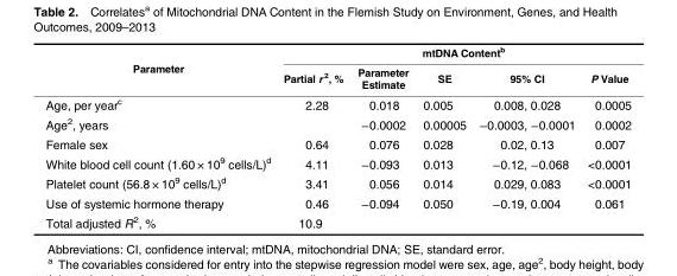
<table><thead><tr><td rowspan="2">Parameter</td><td colspan="5">mtDNA Content<sup>b</sup></td></tr><tr><td>Partial r <sup>2</sup>, %</td><td>Parameter Estimate</td><td>SE</td><td>95% CI</td><td>P Value</td></tr></thead><tbody><tr><td>Age, per year<sup>c</sup></td><td>2.28</td><td>0.018</td><td>0.005</td><td>0.008, 0.028</td><td>0.0005</td></tr><tr><td>Age<sup>2</sup>, years</td><td></td><td>−0.0002</td><td>0.00005</td><td>−0.0003, −0.0001</td><td>0.0002</td></tr><tr><td>Female sex</td><td>0.64</td><td>0.076</td><td>0.028</td><td>0.02, 0.13</td><td>0.007</td></tr><tr><td>White blood cell count (1.60 × 10<sup>9</sup> cells/L)<sup>d</sup></td><td>4.11</td><td>−0.093</td><td>0.013</td><td>−0.12, −0.068</td><td>&lt;0.0001</td></tr><tr><td>Platelet count (56.8 × 10<sup>9</sup> cells/L)<sup>d</sup></td><td>3.41</td><td>0.056</td><td>0.014</td><td>0.029, 0.083</td><td>&lt;0.0001</td></tr><tr><td>Use of systemic hormone therapy</td><td>0.46</td><td>−0.094</td><td>0.050</td><td>−0.19, 0.004</td><td>0.061</td></tr><tr><td>Total adjusted R<sup>2</sup>, %</td><td>10.9</td><td></td><td></td><td></td><td></td></tr></tbody></table>